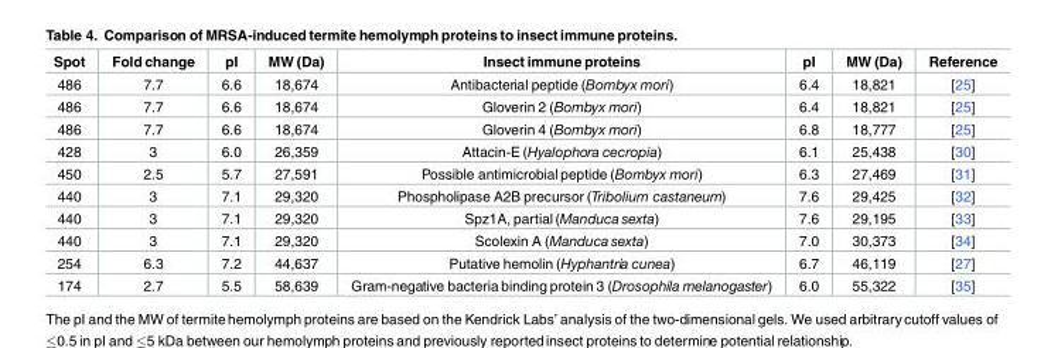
<table><thead><tr><td>Spot</td><td>Fold change</td><td>pI</td><td>MW (Da)</td><td>Insect immune proteins</td><td>pI</td><td>MW (Da)</td><td>Reference</td></tr></thead><tbody><tr><td>486</td><td>7.7</td><td>6.6</td><td>18,674</td><td>Antibacterial peptide (Bombyx mori)</td><td>6.4</td><td>18,821</td><td>[25]</td></tr><tr><td>486</td><td>7.7</td><td>6.6</td><td>18,674</td><td>Gloverin 2 (Bombyx mori)</td><td>6.4</td><td>18,821</td><td>[25]</td></tr><tr><td>486</td><td>7.7</td><td>6.6</td><td>18,674</td><td>Gloverin 4 (Bombyx mori)</td><td>6.8</td><td>18,777</td><td>[25]</td></tr><tr><td>428</td><td>3</td><td>6.0</td><td>26,359</td><td>Attacin-E (Hyalophora cecropia)</td><td>6.1</td><td>25,438</td><td>[30]</td></tr><tr><td>450</td><td>2.5</td><td>5.7</td><td>27,591</td><td>Possible antimicrobial peptide (Bombyx mori)</td><td>6.3</td><td>27,469</td><td>[31]</td></tr><tr><td>440</td><td>3</td><td>7.1</td><td>29,320</td><td>Phospholipase A2B precursor (Tribolium castaneum)</td><td>7.6</td><td>29,425</td><td>[32]</td></tr><tr><td>440</td><td>3</td><td>7.1</td><td>29,320</td><td>Spz1A, partial(Manduca sexta)</td><td>7.6</td><td>29,195</td><td>[33]</td></tr><tr><td>440</td><td>3</td><td>7.1</td><td>29,320</td><td>Scolexin A (Manduca sexta)</td><td>7.0</td><td>30,373</td><td>[34]</td></tr><tr><td>254</td><td>6.3</td><td>7.2</td><td>44,637</td><td>Putative hemolin (Hyphantria cunea)</td><td>6.7</td><td>46,119</td><td>[27]</td></tr><tr><td>174</td><td>2.7</td><td>5.5</td><td>58,639</td><td>Gram-negative bacteria binding protein 3 (Drosophila melanogaster)</td><td>6.0</td><td>55,322</td><td>[35]</td></tr></tbody></table>